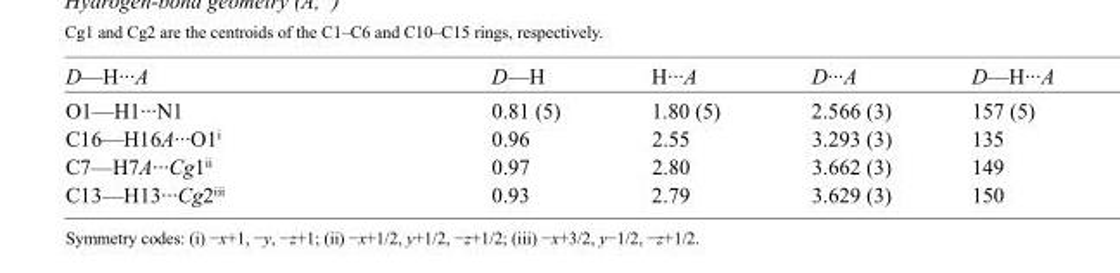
<table><tbody><tr><td>D—H···A</td><td>D—H</td><td>H···A</td><td>D···A</td><td>D—H···A</td></tr><tr><td>O1—H1···N1</td><td>0.81 (5)</td><td>1.80 (5)</td><td>2.566 (3)</td><td>157 (5)</td></tr><tr><td>C16—H16A···O1<sup>i</sup></td><td>0.96</td><td>2.55</td><td>3.293 (3)</td><td>135</td></tr><tr><td>C7—H7A···Cg1<sup>ii</sup></td><td>0.97</td><td>2.80</td><td>3.662 (3)</td><td>149</td></tr><tr><td>C13—H13···Cg2<sup>iii</sup></td><td>0.93</td><td>2.79</td><td>3.629 (3)</td><td>150</td></tr></tbody></table>